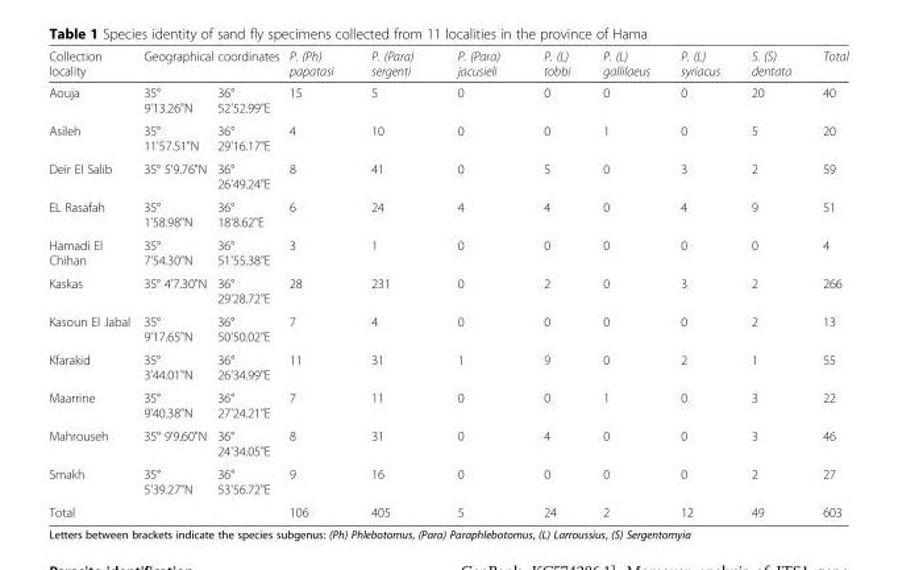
<table><thead><tr><td rowspan="2">Collection locality Aouja</td><td colspan="2">Geographical coordinates</td><td rowspan="2">P. (Ph) papatasi 15</td><td rowspan="2">P. (Para) sergenti 5</td><td rowspan="2">P. (Para) jacusieli 0</td><td rowspan="2">P. (L) tobbi 0</td><td rowspan="2">P. (L) gallilaeus 0</td><td rowspan="2">P. (L) syriacus 0</td><td rowspan="2">S. (S) dentata 20</td><td rowspan="2">Total 40</td></tr><tr><td>35° 9&#x27;13.26&quot;N</td><td>36° 52&#x27;52.99&quot;E</td></tr></thead><tbody><tr><td>Asileh</td><td>35° 11&#x27;57.51&quot;N</td><td>36° 29&#x27;16.17&quot;E</td><td>4</td><td>10</td><td>0</td><td>0</td><td>1</td><td>0</td><td>5</td><td>20</td></tr><tr><td>Deir El Salib</td><td>35° 5&#x27;9.76&quot;N</td><td>36° 26&#x27;49.24&quot;E</td><td>8</td><td>41</td><td>0</td><td>5</td><td>0</td><td>3</td><td>2</td><td>59</td></tr><tr><td>EL Rasafah</td><td>35° 1&#x27;58.98&quot;N</td><td>36° 18&#x27;8.62&quot;E</td><td>6</td><td>24</td><td>4</td><td>4</td><td>0</td><td>4</td><td>9</td><td>51</td></tr><tr><td>Hamadi El Chihan</td><td>35° 7&#x27;54.30&quot;N</td><td>36° 51&#x27;55.38&quot;E</td><td>3</td><td>1</td><td>0</td><td>0</td><td>0</td><td>0</td><td>0</td><td>4</td></tr><tr><td>Kaskas</td><td>35° 4&#x27;7.30&quot;N</td><td>36° 29&#x27;28.72&quot;E</td><td>28</td><td>231</td><td>0</td><td>2</td><td>0</td><td>3</td><td>2</td><td>266</td></tr><tr><td>Kasoun El Jabal</td><td>35° 9&#x27;17.65&quot;N</td><td>36° 50&#x27;50.02&quot;E</td><td>7</td><td>4</td><td>0</td><td>0</td><td>0</td><td>0</td><td>2</td><td>13</td></tr><tr><td>Kfarakid</td><td>35° 3&#x27;44.01&quot;N</td><td>36° 26&#x27;34.99&quot;E</td><td>11</td><td>31</td><td>1</td><td>9</td><td>0</td><td>2</td><td>1</td><td>55</td></tr><tr><td>Maarrine</td><td>35° 9&#x27;40.38&quot;N</td><td>36° 27&#x27;24.21&quot;E</td><td>7</td><td>11</td><td>0</td><td>0</td><td>1</td><td>0</td><td>3</td><td>22</td></tr><tr><td>Mahrouseh</td><td>35° 9&#x27;9.60&quot;N</td><td>36° 24&#x27;34.05&quot;E</td><td>8</td><td>31</td><td>0</td><td>4</td><td>0</td><td>0</td><td>3</td><td>46</td></tr><tr><td>Smakh</td><td>35° 5&#x27;39.27&quot;N</td><td>36° 53&#x27;56.72&quot;E</td><td>9</td><td>16</td><td>0</td><td>0</td><td>0</td><td>0</td><td>2</td><td>27</td></tr><tr><td>Total</td><td></td><td></td><td>106</td><td>405</td><td>5</td><td>24</td><td>2</td><td>12</td><td>49</td><td>603</td></tr></tbody></table>